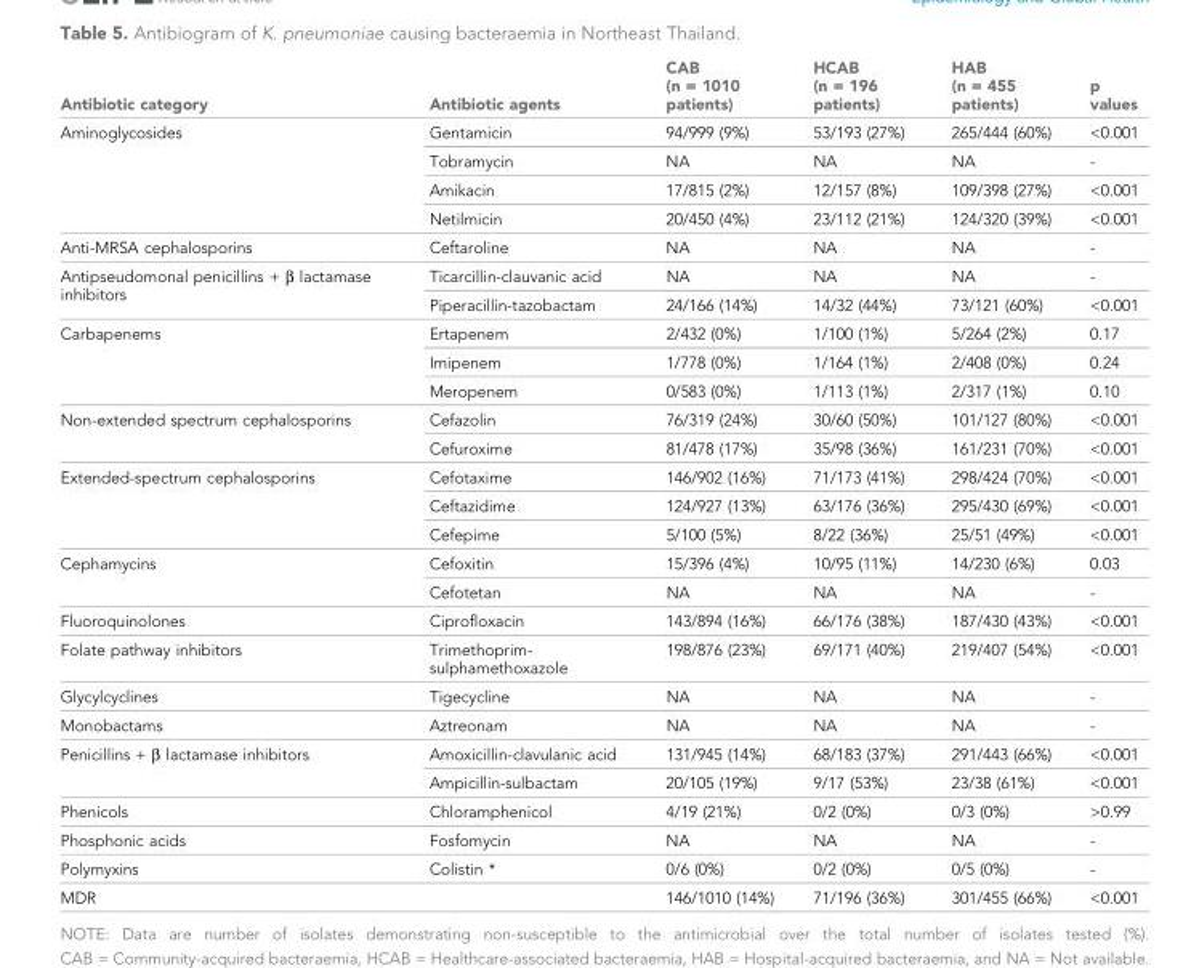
<table><thead><tr><td>Antibiotic category</td><td>Antibiotic agents</td><td>CAB (n = 1010 patients)</td><td>HCAB (n = 196 patients)</td><td>HAB (n = 455 patients)</td><td>p values</td></tr></thead><tbody><tr><td rowspan="4">Aminoglycosides</td><td>Gentamicin</td><td>94/999 (9%)</td><td>53/193 (27%)</td><td>265/444 (60%)</td><td>&lt;0.001</td></tr><tr><td>Tobramycin</td><td>NA</td><td>NA</td><td>NA</td><td>-</td></tr><tr><td>Amikacin</td><td>17/815 (2%)</td><td>12/157 (8%)</td><td>109/398 (27%)</td><td>&lt;0.001</td></tr><tr><td>Netilmicin</td><td>20/450 (4%)</td><td>23/112 (21%)</td><td>124/320 (39%)</td><td>&lt;0.001</td></tr><tr><td>Anti-MRSA cephalosporins</td><td>Ceftaroline</td><td>NA</td><td>NA</td><td>NA</td><td>-</td></tr><tr><td rowspan="2">Antipseudomonal penicillins + β lactamase inhibitors</td><td>Ticarcillin-clauvanic acid</td><td>NA</td><td>NA</td><td>NA</td><td>-</td></tr><tr><td>Piperacillin-tazobactam</td><td>24/166 (14%)</td><td>14/32 (44%)</td><td>73/121 (60%)</td><td>&lt;0.001</td></tr><tr><td rowspan="3">Carbapenems</td><td>Ertapenem</td><td>2/432 (0%)</td><td>1/100 (1%)</td><td>5/264 (2%)</td><td>0.17</td></tr><tr><td>Imipenem</td><td>1/778 (0%)</td><td>1/164 (1%)</td><td>2/408 (0%)</td><td>0.24</td></tr><tr><td>Meropenem</td><td>0/583 (0%)</td><td>1/113 (1%)</td><td>2/317 (1%)</td><td>0.10</td></tr><tr><td rowspan="2">Non-extended spectrum cephalosporins</td><td>Cefazolin</td><td>76/319 (24%)</td><td>30/60 (50%)</td><td>101/127 (80%)</td><td>&lt;0.001</td></tr><tr><td>Cefuroxime</td><td>81/478 (17%)</td><td>35/98 (36%)</td><td>161/231 (70%)</td><td>&lt;0.001</td></tr><tr><td rowspan="3">Extended-spectrum cephalosporins</td><td>Cefotaxime</td><td>146/902 (16%)</td><td>71/173 (41%)</td><td>298/424 (70%)</td><td>&lt;0.001</td></tr><tr><td>Ceftazidime</td><td>124/927 (13%)</td><td>63/176 (36%)</td><td>295/430 (69%)</td><td>&lt;0.001</td></tr><tr><td>Cefepime</td><td>5/100 (5%)</td><td>8/22 (36%)</td><td>25/51 (49%)</td><td>&lt;0.001</td></tr><tr><td rowspan="2">Cephamycins</td><td>Cefoxitin</td><td>15/396 (4%)</td><td>10/95 (11%)</td><td>14/230 (6%)</td><td>0.03</td></tr><tr><td>Cefotetan</td><td>NA</td><td>NA</td><td>NA</td><td>-</td></tr><tr><td>Fluoroquinolones</td><td>Ciprofloxacin</td><td>143/894 (16%)</td><td>66/176 (38%)</td><td>187/430 (43%)</td><td>&lt;0.001</td></tr><tr><td>Folate pathway inhibitors</td><td>Trimethoprim- sulphamethoxazole</td><td>198/876 (23%)</td><td>69/171 (40%)</td><td>219/407 (54%)</td><td>&lt;0.001</td></tr><tr><td>Glycylcyclines</td><td>Tigecycline</td><td>NA</td><td>NA</td><td>NA</td><td>-</td></tr><tr><td>Monobactams</td><td>Aztreonam</td><td>NA</td><td>NA</td><td>NA</td><td>-</td></tr><tr><td rowspan="2">Penicillins + β lactamase inhibitors</td><td>Amoxicillin-clavulanic acid</td><td>131/945 (14%)</td><td>68/183 (37%)</td><td>291/443 (66%)</td><td>&lt;0.001</td></tr><tr><td>Ampicillin-sulbactam</td><td>20/105 (19%)</td><td>9/17 (53%)</td><td>23/38 (61%)</td><td>&lt;0.001</td></tr><tr><td>Phenicols</td><td>Chloramphenicol</td><td>4/19 (21%)</td><td>0/2 (0%)</td><td>0/3 (0%)</td><td>&gt;0.99</td></tr><tr><td>Phosphonic acids</td><td>Fosfomycin</td><td>NA</td><td>NA</td><td>NA</td><td>-</td></tr><tr><td>Polymyxins</td><td>Colistin *</td><td>0/6 (0%)</td><td>0/2 (0%)</td><td>0/5 (0%)</td><td>-</td></tr><tr><td>MDR</td><td></td><td>146/1010 (14%)</td><td>71/196 (36%)</td><td>301/455 (66%)</td><td>&lt;0.001</td></tr></tbody></table>